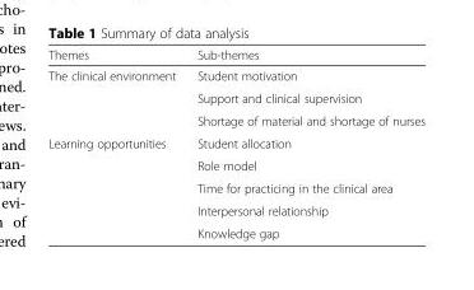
<table><thead><tr><td>Themes</td><td>Sub-themes</td></tr></thead><tbody><tr><td rowspan="3">The clinical environment</td><td>Student motivation</td></tr><tr><td>Support and clinical supervision</td></tr><tr><td>Shortage of material and shortage of nurses</td></tr><tr><td rowspan="5">Learning opportunities</td><td>Student allocation</td></tr><tr><td>Role model</td></tr><tr><td>Time for practicing in the clinical area</td></tr><tr><td>Interpersonal relationship</td></tr><tr><td>Knowledge gap</td></tr></tbody></table>